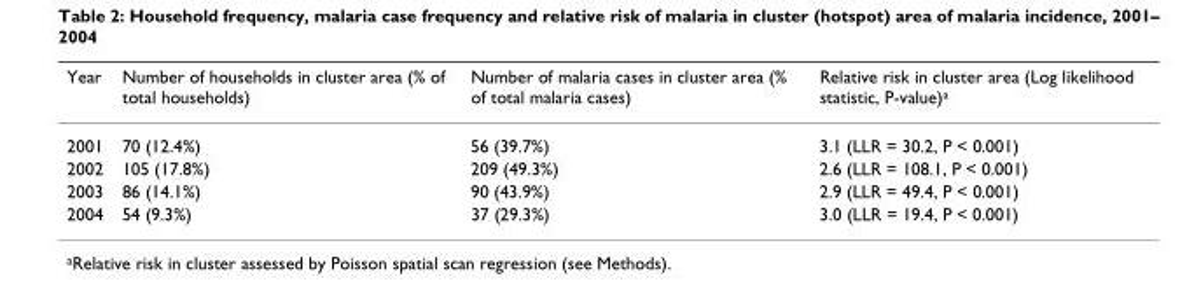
<table><thead><tr><td>Year</td><td>Number of households in cluster area (% of total households)</td><td>Number of malaria cases in cluster area (% of total malaria cases)</td><td>Relative risk in cluster area (Log likelihood statistic, P-value)<sup>a</sup></td></tr></thead><tbody><tr><td>2001</td><td>70 (12.4%)</td><td>56 (39.7%)</td><td>3.1 (LLR = 30.2, P &lt; 0.001)</td></tr><tr><td>2002</td><td>105 (17.8%)</td><td>209 (49.3%)</td><td>2.6 (LLR = 108.1, P &lt; 0.001)</td></tr><tr><td>2003</td><td>86 (14.1%)</td><td>90 (43.9%)</td><td>2.9 (LLR = 49.4, P &lt; 0.001)</td></tr><tr><td>2004</td><td>54 (9.3%)</td><td>37 (29.3%)</td><td>3.0 (LLR = 19.4, P &lt; 0.001)</td></tr></tbody></table>